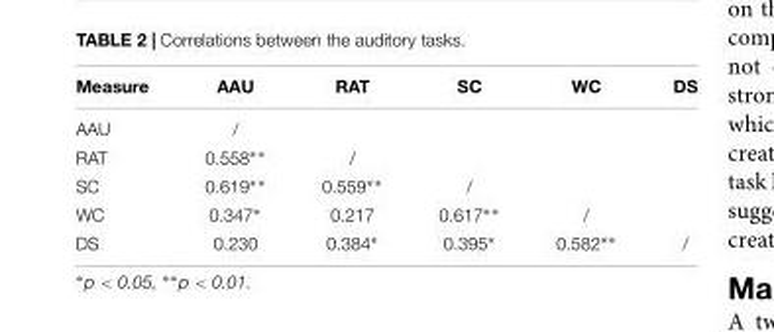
<table><thead><tr><td>Measure</td><td>AAU</td><td>RAT</td><td>SC</td><td>WC</td><td>DS</td></tr></thead><tbody><tr><td>AAU</td><td>/</td><td></td><td></td><td></td><td></td></tr><tr><td>RAT</td><td>0.558∗∗</td><td>/</td><td></td><td></td><td></td></tr><tr><td>SC</td><td>0.619∗∗</td><td>0.559∗∗</td><td>/</td><td></td><td></td></tr><tr><td>WC</td><td>0.347∗</td><td>0.217</td><td>0.617∗∗</td><td>/</td><td></td></tr><tr><td>DS</td><td>0.230</td><td>0.384∗</td><td>0.395∗</td><td>0.582∗∗</td><td>/</td></tr></tbody></table>